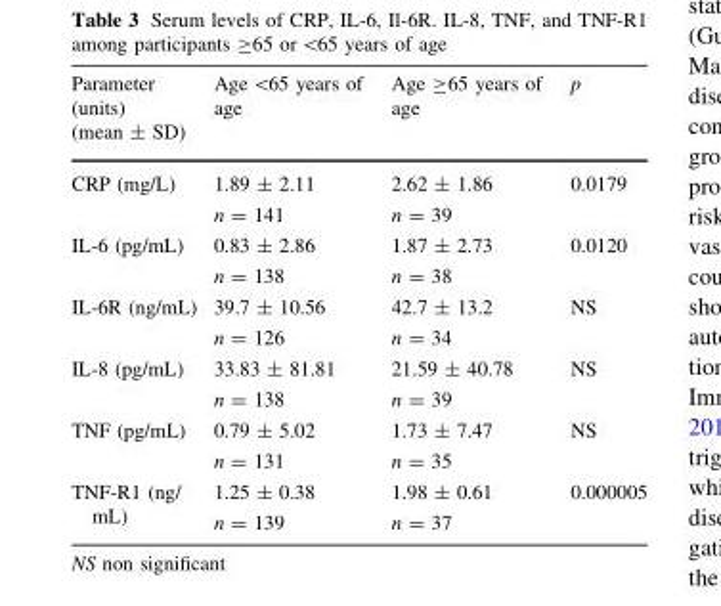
<table><thead><tr><td>Parameter (units) (mean ± SD)</td><td>Age &lt;65 years of age</td><td>Age ≥65 years of age</td><td>p</td></tr></thead><tbody><tr><td>CRP (mg/L)</td><td>1.89 ± 2.11 n = 141</td><td>2.62 ± 1.86 n = 39</td><td>0.0179</td></tr><tr><td>IL-6 (pg/mL)</td><td>0.83 ± 2.86 n = 138</td><td>1.87 ± 2.73 n = 38</td><td>0.0120</td></tr><tr><td>IL-6R (ng/mL)</td><td>39.7 ± 10.56 n = 126</td><td>42.7 ± 13.2 n = 34</td><td>NS</td></tr><tr><td>IL-8 (pg/mL)</td><td>33.83 ± 81.81 n = 138</td><td>21.59 ± 40.78 n = 39</td><td>NS</td></tr><tr><td>TNF (pg/mL)</td><td>0.79 ± 5.02 n = 131</td><td>1.73 ± 7.47 n = 35</td><td>NS</td></tr><tr><td>TNF-R1 (ng/ mL)</td><td>1.25 ± 0.38 n = 139</td><td>1.98 ± 0.61 n = 37</td><td>0.000005</td></tr></tbody></table>